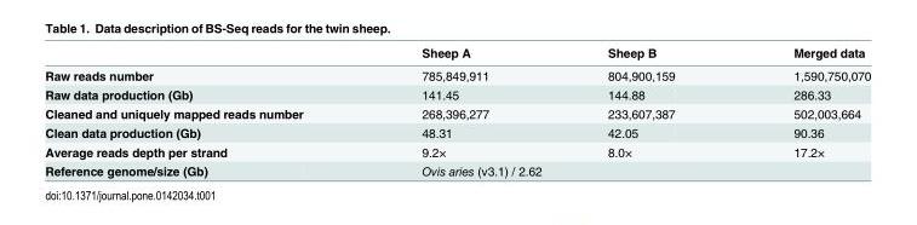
<table><thead><tr><td></td><td>Sheep A</td><td>Sheep B</td><td>Merged data</td></tr></thead><tbody><tr><td>Raw reads number</td><td>785,849,911</td><td>804,900,159</td><td>1,590,750,070</td></tr><tr><td>Raw data production (Gb)</td><td>141.45</td><td>144.88</td><td>286.33</td></tr><tr><td>Cleaned and uniquely mapped reads number</td><td>268,396,277</td><td>233,607,387</td><td>502,003,664</td></tr><tr><td>Clean data production (Gb)</td><td>48.31</td><td>42.05</td><td>90.36</td></tr><tr><td>Average reads depth per strand</td><td>9.2×</td><td>8.0×</td><td>17.2×</td></tr><tr><td>Reference genome/size (Gb)</td><td colspan="3">Ovis aries (v3.1) / 2.62</td></tr></tbody></table>